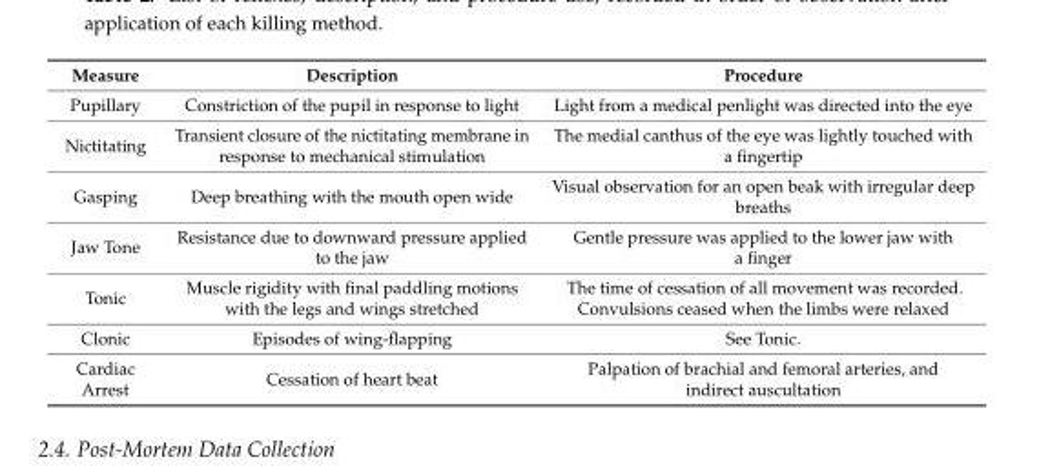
<table><thead><tr><td>Measure</td><td>Description</td><td>Procedure</td></tr></thead><tbody><tr><td>Pupillary</td><td>Constriction of the pupil in response to light</td><td>Light from a medical penlight was directed into the eye</td></tr><tr><td>Nictitating</td><td>Transient closure of the nictitating membrane in response to mechanical stimulation</td><td>The medial canthus of the eye was lightly touched with a fingertip</td></tr><tr><td>Gasping</td><td>Deep breathing with the mouth open wide</td><td>Visual observation for an open beak with irregular deep breaths</td></tr><tr><td>Jaw Tone</td><td>Resistance due to downward pressure applied to the jaw</td><td>Gentle pressure was applied to the lower jaw with a finger</td></tr><tr><td>Tonic</td><td>Muscle rigidity with final paddling motions with the legs and wings stretched</td><td>The time of cessation of all movement was recorded. Convulsions ceased when the limbs were relaxed</td></tr><tr><td>Clonic</td><td>Episodes of wing-flapping</td><td>See Tonic.</td></tr><tr><td>Cardiac Arrest</td><td>Cessation of heart beat</td><td>Palpation of brachial and femoral arteries, and indirect auscultation</td></tr></tbody></table>